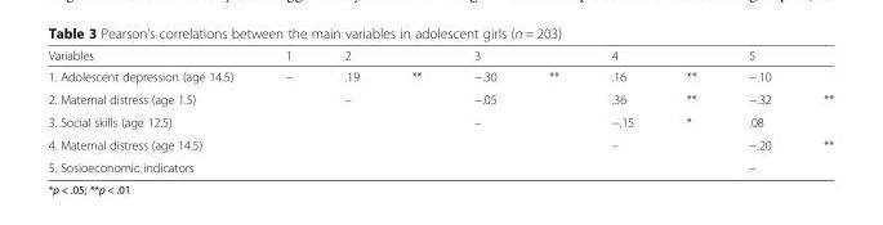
<table><thead><tr><td>Variables</td><td>1</td><td>2</td><td></td><td>3</td><td></td><td>4</td><td></td><td>5</td><td></td></tr></thead><tbody><tr><td>1. Adolescent depression (age 14.5)</td><td>–</td><td>.19</td><td>**</td><td>−.30</td><td>**</td><td>.16</td><td>**</td><td>−.10</td><td></td></tr><tr><td>2. Maternal distress (age 1.5)</td><td></td><td>–</td><td></td><td>−.05</td><td></td><td>.36</td><td>**</td><td>−.32</td><td>**</td></tr><tr><td>3. Social skills (age 12.5)</td><td></td><td></td><td></td><td>–</td><td></td><td>−.15</td><td>*</td><td>.08</td><td></td></tr><tr><td>4. Maternal distress (age 14.5)</td><td></td><td></td><td></td><td></td><td></td><td>–</td><td></td><td>−.20</td><td>**</td></tr><tr><td>5. Sosioeconomic indicators</td><td></td><td></td><td></td><td></td><td></td><td></td><td></td><td>–</td><td></td></tr></tbody></table>